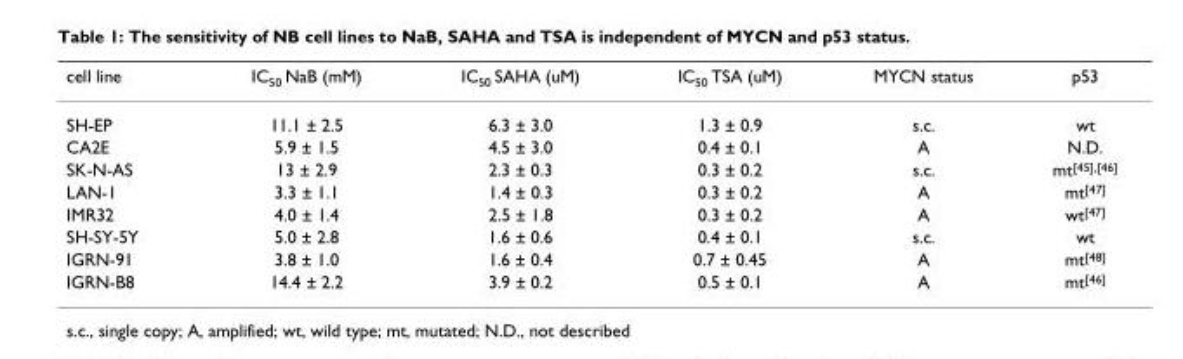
<table><thead><tr><td>cell line</td><td>IC<sub>50</sub> NaB (mM)</td><td>IC<sub>50</sub> SAHA (uM)</td><td>IC<sub>50</sub> TSA (uM)</td><td>MYCN status</td><td>p53</td></tr></thead><tbody><tr><td>SH-EP</td><td>11.1 ± 2.5</td><td>6.3 ± 3.0</td><td>1.3 ± 0.9</td><td>s.c.</td><td>wt</td></tr><tr><td>CA2E</td><td>5.9 ± 1.5</td><td>4.5 ± 3.0</td><td>0.4 ± 0.1</td><td>A</td><td>N.D.</td></tr><tr><td>SK-N-AS</td><td>13 ± 2.9</td><td>2.3 ± 0.3</td><td>0.3 ± 0.2</td><td>s.c.</td><td>mt<sup>[45],[46]</sup></td></tr><tr><td>LAN-1</td><td>3.3 ± 1.1</td><td>1.4 ± 0.3</td><td>0.3 ± 0.2</td><td>A</td><td>mt<sup>[47]</sup></td></tr><tr><td>IMR32</td><td>4.0 ± 1.4</td><td>2.5 ± 1.8</td><td>0.3 ± 0.2</td><td>A</td><td>wt<sup>[47]</sup></td></tr><tr><td>SH-SY-5Y</td><td>5.0 ± 2.8</td><td>1.6 ± 0.6</td><td>0.4 ± 0.1</td><td>s.c.</td><td>wt</td></tr><tr><td>IGRN-91</td><td>3.8 ± 1.0</td><td>1.6 ± 0.4</td><td>0.7 ± 0.45</td><td>A</td><td>mt<sup>[48]</sup></td></tr><tr><td>IGRN-B8</td><td>14.4 ± 2.2</td><td>3.9 ± 0.2</td><td>0.5 ± 0.1</td><td>A</td><td>mt<sup>[46]</sup></td></tr></tbody></table>